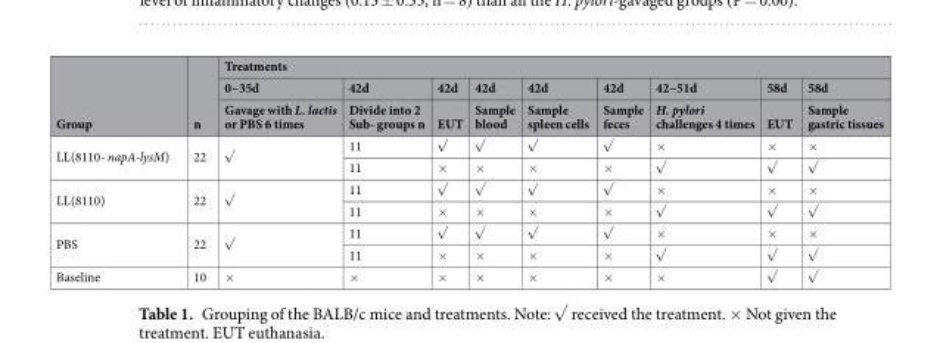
<table><thead><tr><td rowspan="3">Group</td><td rowspan="3">n</td><td colspan="9">Treatments</td></tr><tr><td rowspan="2">0~35d Gavage with L. lactis or PBS 6 times</td><td rowspan="2">42d Divide into 2 Sub- groups n</td><td rowspan="2">42d EUT</td><td rowspan="2">42d Sample blood</td><td rowspan="2">42d Sample spleen cells</td><td rowspan="2">42d Sample feces</td><td rowspan="2">42~51d H. pylori challenges 4 times</td><td rowspan="2">58d EUT</td><td rowspan="2">58d Sample gastric tissues</td></tr><tr></tr></thead><tbody><tr><td rowspan="2">LL(8110- napA-lysM)</td><td rowspan="2">22</td><td rowspan="2">√</td><td>11</td><td>√</td><td>√</td><td>√</td><td>√</td><td>×</td><td>×</td><td>×</td></tr><tr><td>11</td><td>×</td><td>×</td><td>×</td><td>×</td><td>√</td><td>√</td><td>√</td></tr><tr><td rowspan="2">LL(8110)</td><td rowspan="2">22</td><td rowspan="2">√</td><td>11</td><td>√</td><td>√</td><td>√</td><td>√</td><td>×</td><td>×</td><td>×</td></tr><tr><td>11</td><td>×</td><td>×</td><td>×</td><td>×</td><td>√</td><td>√</td><td>√</td></tr><tr><td rowspan="2">PBS</td><td rowspan="2">22</td><td rowspan="2">√</td><td>11</td><td>√</td><td>√</td><td>√</td><td>√</td><td>×</td><td>×</td><td>×</td></tr><tr><td>11</td><td>×</td><td>×</td><td>×</td><td>×</td><td>√</td><td>√</td><td>√</td></tr><tr><td>Baseline</td><td>10</td><td>×</td><td>×</td><td>×</td><td>×</td><td>×</td><td>×</td><td>×</td><td>√</td><td>√</td></tr></tbody></table>